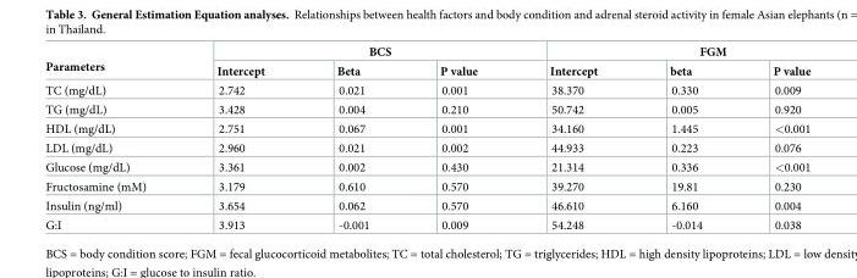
<table><thead><tr><td rowspan="2">Parameters</td><td colspan="3">BCS</td><td colspan="3">FGM</td></tr><tr><td>Intercept</td><td>Beta</td><td>P value</td><td>Intercept</td><td>beta</td><td>P value</td></tr></thead><tbody><tr><td>TC (mg/dL)</td><td>2.742</td><td>0.021</td><td>0.001</td><td>38.370</td><td>0.330</td><td>0.009</td></tr><tr><td>TG (mg/dL)</td><td>3.428</td><td>0.004</td><td>0.210</td><td>50.742</td><td>0.005</td><td>0.920</td></tr><tr><td>HDL (mg/dL)</td><td>2.751</td><td>0.067</td><td>0.001</td><td>34.160</td><td>1.445</td><td>&lt;0.001</td></tr><tr><td>LDL (mg/dL)</td><td>2.960</td><td>0.021</td><td>0.002</td><td>44.933</td><td>0.223</td><td>0.076</td></tr><tr><td>Glucose (mg/dL)</td><td>3.361</td><td>0.002</td><td>0.430</td><td>21.314</td><td>0.336</td><td>&lt;0.001</td></tr><tr><td>Fructosamine (mM)</td><td>3.179</td><td>0.610</td><td>0.570</td><td>39.270</td><td>19.81</td><td>0.230</td></tr><tr><td>Insulin (ng/ml)</td><td>3.654</td><td>0.062</td><td>0.570</td><td>46.610</td><td>6.160</td><td>0.004</td></tr><tr><td>G:I</td><td>3.913</td><td>-0.001</td><td>0.009</td><td>54.248</td><td>-0.014</td><td>0.038</td></tr></tbody></table>